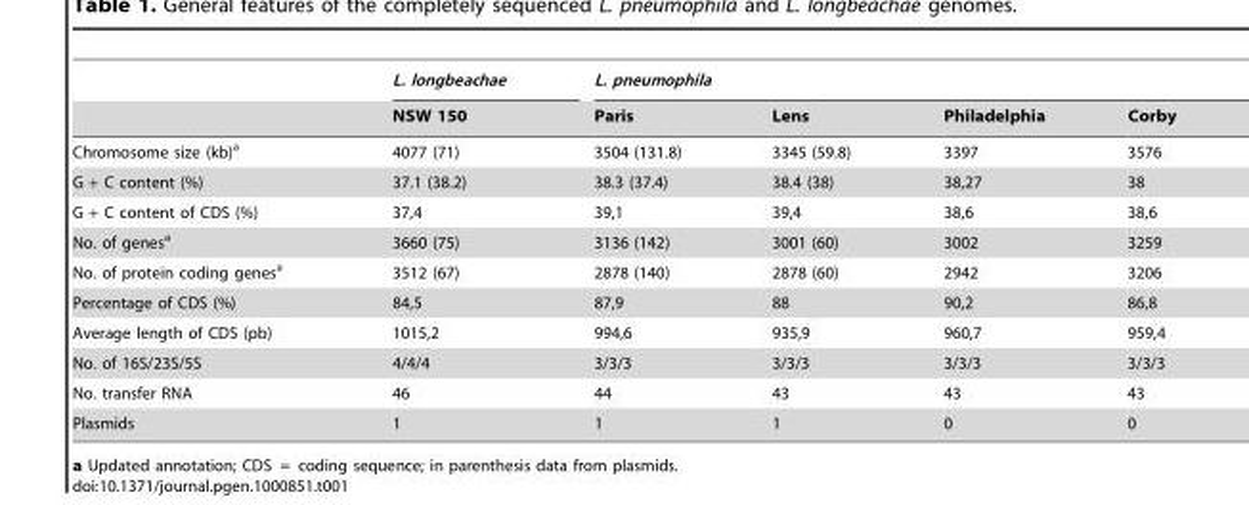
<table><thead><tr><td rowspan="2"></td><td rowspan="2">L. longbeachae NSW 150</td><td colspan="4">L. pneumophila</td></tr><tr><td>Paris</td><td>Lens</td><td>Philadelphia</td><td>Corby</td></tr></thead><tbody><tr><td>Chromosome size (kb)<sup>a</sup></td><td>4077 (71)</td><td>3504 (131.8)</td><td>3345 (59.8)</td><td>3397</td><td>3576</td></tr><tr><td>G + C content (%)</td><td>37.1 (38.2)</td><td>38.3 (37.4)</td><td>38.4 (38)</td><td>38,27</td><td>38</td></tr><tr><td>G + C content of CDS (%)</td><td>37,4</td><td>39,1</td><td>39,4</td><td>38,6</td><td>38,6</td></tr><tr><td>No. of genes<sup>a</sup></td><td>3660 (75)</td><td>3136 (142)</td><td>3001 (60)</td><td>3002</td><td>3259</td></tr><tr><td>No. of protein coding genes<sup>a</sup></td><td>3512 (67)</td><td>2878 (140)</td><td>2878 (60)</td><td>2942</td><td>3206</td></tr><tr><td>Percentage of CDS (%)</td><td>84,5</td><td>87,9</td><td>88</td><td>90,2</td><td>86,8</td></tr><tr><td>Average length of CDS (pb)</td><td>1015,2</td><td>994,6</td><td>935,9</td><td>960,7</td><td>959,4</td></tr><tr><td>No. of 16S/23S/5S</td><td>4/4/4</td><td>3/3/3</td><td>3/3/3</td><td>3/3/3</td><td>3/3/3</td></tr><tr><td>No. transfer RNA</td><td>46</td><td>44</td><td>43</td><td>43</td><td>43</td></tr><tr><td>Plasmids</td><td>1</td><td>1</td><td>1</td><td>0</td><td>0</td></tr></tbody></table>